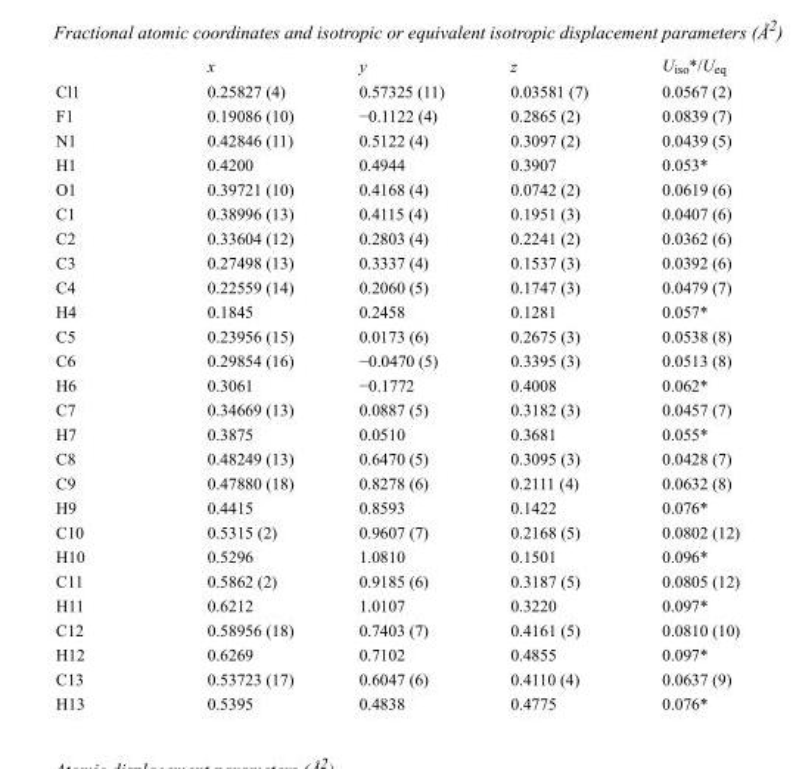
<table><thead><tr><td></td><td>x</td><td>y</td><td>z</td><td>U<sub>iso</sub>*/U<sub>eq</sub></td></tr></thead><tbody><tr><td>Cl1</td><td>0.25827 (4)</td><td>0.57325 (11)</td><td>0.03581 (7)</td><td>0.0567 (2)</td></tr><tr><td>F1</td><td>0.19086 (10)</td><td>−0.1122 (4)</td><td>0.2865 (2)</td><td>0.0839 (7)</td></tr><tr><td>N1</td><td>0.42846 (11)</td><td>0.5122 (4)</td><td>0.3097 (2)</td><td>0.0439 (5)</td></tr><tr><td>H1</td><td>0.4200</td><td>0.4944</td><td>0.3907</td><td>0.053*</td></tr><tr><td>O1</td><td>0.39721 (10)</td><td>0.4168 (4)</td><td>0.0742 (2)</td><td>0.0619 (6)</td></tr><tr><td>C1</td><td>0.38996 (13)</td><td>0.4115 (4)</td><td>0.1951 (3)</td><td>0.0407 (6)</td></tr><tr><td>C2</td><td>0.33604 (12)</td><td>0.2803 (4)</td><td>0.2241 (2)</td><td>0.0362 (6)</td></tr><tr><td>C3</td><td>0.27498 (13)</td><td>0.3337 (4)</td><td>0.1537 (3)</td><td>0.0392 (6)</td></tr><tr><td>C4</td><td>0.22559 (14)</td><td>0.2060 (5)</td><td>0.1747 (3)</td><td>0.0479 (7)</td></tr><tr><td>H4</td><td>0.1845</td><td>0.2458</td><td>0.1281</td><td>0.057*</td></tr><tr><td>C5</td><td>0.23956 (15)</td><td>0.0173 (6)</td><td>0.2675 (3)</td><td>0.0538 (8)</td></tr><tr><td>C6</td><td>0.29854 (16)</td><td>−0.0470 (5)</td><td>0.3395 (3)</td><td>0.0513 (8)</td></tr><tr><td>H6</td><td>0.3061</td><td>−0.1772</td><td>0.4008</td><td>0.062*</td></tr><tr><td>C7</td><td>0.34669 (13)</td><td>0.0887 (5)</td><td>0.3182 (3)</td><td>0.0457 (7)</td></tr><tr><td>H7</td><td>0.3875</td><td>0.0510</td><td>0.3681</td><td>0.055*</td></tr><tr><td>C8</td><td>0.48249 (13)</td><td>0.6470 (5)</td><td>0.3095 (3)</td><td>0.0428 (7)</td></tr><tr><td>C9</td><td>0.47880 (18)</td><td>0.8278 (6)</td><td>0.2111 (4)</td><td>0.0632 (8)</td></tr><tr><td>H9</td><td>0.4415</td><td>0.8593</td><td>0.1422</td><td>0.076*</td></tr><tr><td>C10</td><td>0.5315 (2)</td><td>0.9607 (7)</td><td>0.2168 (5)</td><td>0.0802 (12)</td></tr><tr><td>H10</td><td>0.5296</td><td>1.0810</td><td>0.1501</td><td>0.096*</td></tr><tr><td>C11</td><td>0.5862 (2)</td><td>0.9185 (6)</td><td>0.3187 (5)</td><td>0.0805 (12)</td></tr><tr><td>H11</td><td>0.6212</td><td>1.0107</td><td>0.3220</td><td>0.097*</td></tr><tr><td>C12</td><td>0.58956 (18)</td><td>0.7403 (7)</td><td>0.4161 (5)</td><td>0.0810 (10)</td></tr><tr><td>H12</td><td>0.6269</td><td>0.7102</td><td>0.4855</td><td>0.097*</td></tr><tr><td>C13</td><td>0.53723 (17)</td><td>0.6047 (6)</td><td>0.4110 (4)</td><td>0.0637 (9)</td></tr><tr><td>H13</td><td>0.5395</td><td>0.4838</td><td>0.4775</td><td>0.076*</td></tr></tbody></table>